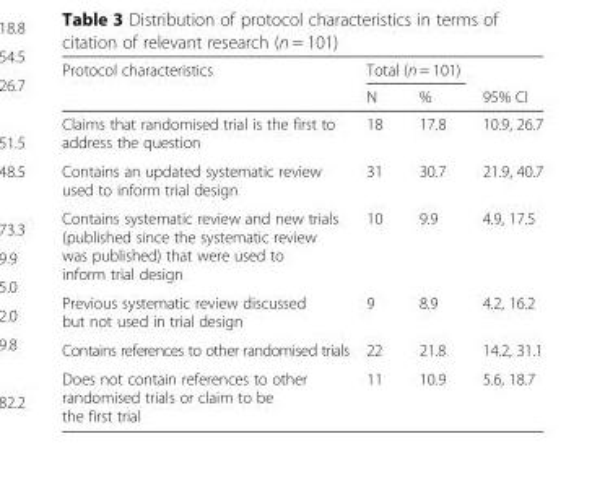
<table><thead><tr><td rowspan="2">Protocol characteristics</td><td colspan="2">Total (n = 101)</td><td rowspan="2">95% CI</td></tr><tr><td>N</td><td>%</td></tr></thead><tbody><tr><td>Claims that randomised trial is the first to address the question</td><td>18</td><td>17.8</td><td>10.9, 26.7</td></tr><tr><td>Contains an updated systematic review used to inform trial design</td><td>31</td><td>30.7</td><td>21.9, 40.7</td></tr><tr><td>Contains systematic review and new trials (published since the systematic review was published) that were used to inform trial design</td><td>10</td><td>9.9</td><td>4.9, 17.5</td></tr><tr><td>Previous systematic review discussed but not used in trial design</td><td>9</td><td>8.9</td><td>4.2, 16.2</td></tr><tr><td>Contains references to other randomised trials</td><td>22</td><td>21.8</td><td>14.2, 31.1</td></tr><tr><td>Does not contain references to other randomised trials or claim to be the first trial</td><td>11</td><td>10.9</td><td>5.6, 18.7</td></tr></tbody></table>